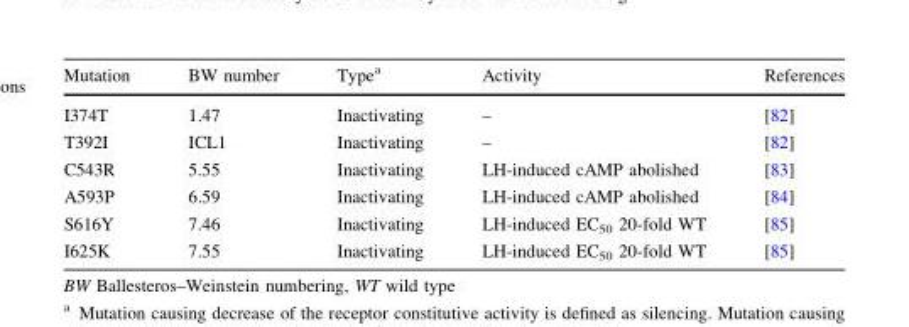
<table><thead><tr><td>Mutation</td><td>BW number</td><td>Type<sup>a</sup></td><td>Activity</td><td>References</td></tr></thead><tbody><tr><td>I374T</td><td>1.47</td><td>Inactivating</td><td>–</td><td>[82]</td></tr><tr><td>T392I</td><td>ICL1</td><td>Inactivating</td><td>–</td><td>[82]</td></tr><tr><td>C543R</td><td>5.55</td><td>Inactivating</td><td>LH-induced cAMP abolished</td><td>[83]</td></tr><tr><td>A593P</td><td>6.59</td><td>Inactivating</td><td>LH-induced cAMP abolished</td><td>[84]</td></tr><tr><td>S616Y</td><td>7.46</td><td>Inactivating</td><td>LH-induced EC<sub>50</sub> 20-fold WT</td><td>[85]</td></tr><tr><td>I625K</td><td>7.55</td><td>Inactivating</td><td>LH-induced EC<sub>50</sub> 20-fold WT</td><td>[85]</td></tr></tbody></table>